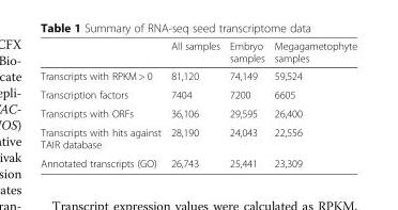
<table><thead><tr><td></td><td>All samples</td><td>Embryo samples</td><td>Megagametophyte samples</td></tr></thead><tbody><tr><td>Transcripts with RPKM &gt; 0</td><td>81,120</td><td>74,149</td><td>59,524</td></tr><tr><td>Transcription factors</td><td>7404</td><td>7200</td><td>6605</td></tr><tr><td>Transcripts with ORFs</td><td>36,106</td><td>29,595</td><td>26,400</td></tr><tr><td>Transcripts with hits against TAIR database</td><td>28,190</td><td>24,043</td><td>22,556</td></tr><tr><td>Annotated transcripts (GO)</td><td>26,743</td><td>25,441</td><td>23,309</td></tr></tbody></table>